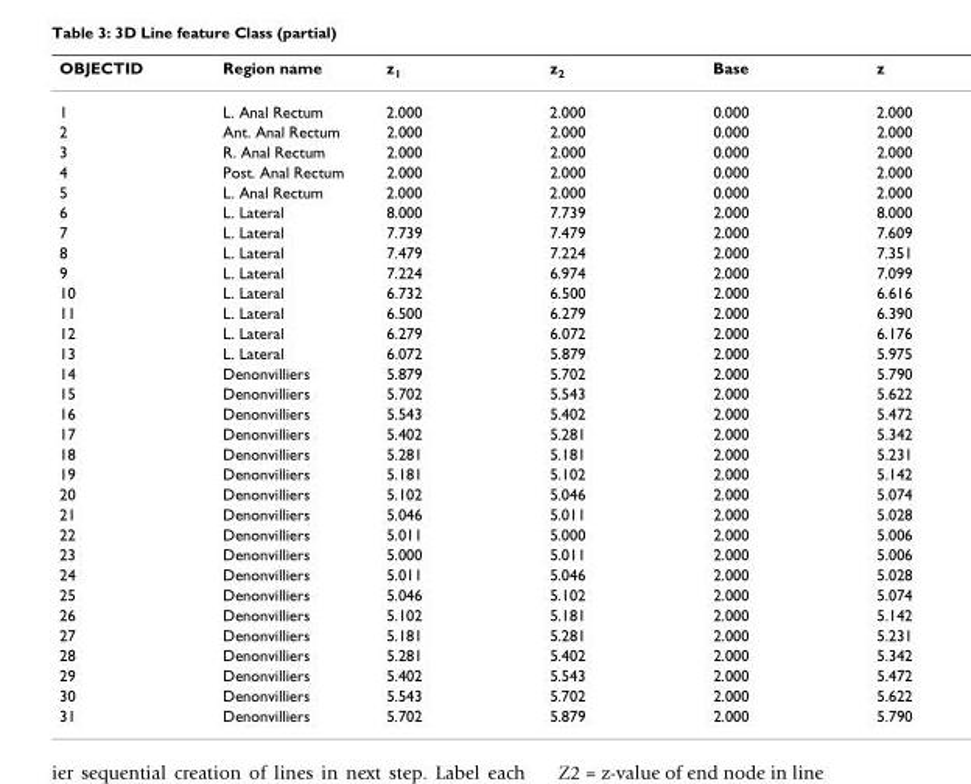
<table><thead><tr><td>OBJECTID</td><td>Region name</td><td>z<sub>1</sub></td><td>z<sub>2</sub></td><td>Base</td><td>z</td></tr></thead><tbody><tr><td>1</td><td>L. Anal Rectum</td><td>2.000</td><td>2.000</td><td>0.000</td><td>2.000</td></tr><tr><td>2</td><td>Ant. Anal Rectum</td><td>2.000</td><td>2.000</td><td>0.000</td><td>2.000</td></tr><tr><td>3</td><td>R. Anal Rectum</td><td>2.000</td><td>2.000</td><td>0.000</td><td>2.000</td></tr><tr><td>4</td><td>Post. Anal Rectum</td><td>2.000</td><td>2.000</td><td>0.000</td><td>2.000</td></tr><tr><td>5</td><td>L. Anal Rectum</td><td>2.000</td><td>2.000</td><td>0.000</td><td>2.000</td></tr><tr><td>6</td><td>L. Lateral</td><td>8.000</td><td>7.739</td><td>2.000</td><td>8.000</td></tr><tr><td>7</td><td>L. Lateral</td><td>7.739</td><td>7.479</td><td>2.000</td><td>7.609</td></tr><tr><td>8</td><td>L. Lateral</td><td>7.479</td><td>7.224</td><td>2.000</td><td>7.351</td></tr><tr><td>9</td><td>L. Lateral</td><td>7.224</td><td>6.974</td><td>2.000</td><td>7.099</td></tr><tr><td>10</td><td>L. Lateral</td><td>6.732</td><td>6.500</td><td>2.000</td><td>6.616</td></tr><tr><td>11</td><td>L. Lateral</td><td>6.500</td><td>6.279</td><td>2.000</td><td>6.390</td></tr><tr><td>12</td><td>L. Lateral</td><td>6.279</td><td>6.072</td><td>2.000</td><td>6.176</td></tr><tr><td>13</td><td>L. Lateral</td><td>6.072</td><td>5.879</td><td>2.000</td><td>5.975</td></tr><tr><td>14</td><td>Denonvilliers</td><td>5.879</td><td>5.702</td><td>2.000</td><td>5.790</td></tr><tr><td>15</td><td>Denonvilliers</td><td>5.702</td><td>5.543</td><td>2.000</td><td>5.622</td></tr><tr><td>16</td><td>Denonvilliers</td><td>5.543</td><td>5.402</td><td>2.000</td><td>5.472</td></tr><tr><td>17</td><td>Denonvilliers</td><td>5.402</td><td>5.281</td><td>2.000</td><td>5.342</td></tr><tr><td>18</td><td>Denonvilliers</td><td>5.281</td><td>5.181</td><td>2.000</td><td>5.231</td></tr><tr><td>19</td><td>Denonvilliers</td><td>5.181</td><td>5.102</td><td>2.000</td><td>5.142</td></tr><tr><td>20</td><td>Denonvilliers</td><td>5.102</td><td>5.046</td><td>2.000</td><td>5.074</td></tr><tr><td>21</td><td>Denonvilliers</td><td>5.046</td><td>5.011</td><td>2.000</td><td>5.028</td></tr><tr><td>22</td><td>Denonvilliers</td><td>5.011</td><td>5.000</td><td>2.000</td><td>5.006</td></tr><tr><td>23</td><td>Denonvilliers</td><td>5.000</td><td>5.011</td><td>2.000</td><td>5.006</td></tr><tr><td>24</td><td>Denonvilliers</td><td>5.011</td><td>5.046</td><td>2.000</td><td>5.028</td></tr><tr><td>25</td><td>Denonvilliers</td><td>5.046</td><td>5.102</td><td>2.000</td><td>5.074</td></tr><tr><td>26</td><td>Denonvilliers</td><td>5.102</td><td>5.181</td><td>2.000</td><td>5.142</td></tr><tr><td>27</td><td>Denonvilliers</td><td>5.181</td><td>5.281</td><td>2.000</td><td>5.231</td></tr><tr><td>28</td><td>Denonvilliers</td><td>5.281</td><td>5.402</td><td>2.000</td><td>5.342</td></tr><tr><td>29</td><td>Denonvilliers</td><td>5.402</td><td>5.543</td><td>2.000</td><td>5.472</td></tr><tr><td>30</td><td>Denonvilliers</td><td>5.543</td><td>5.702</td><td>2.000</td><td>5.622</td></tr><tr><td>31</td><td>Denonvilliers</td><td>5.702</td><td>5.879</td><td>2.000</td><td>5.790</td></tr></tbody></table>